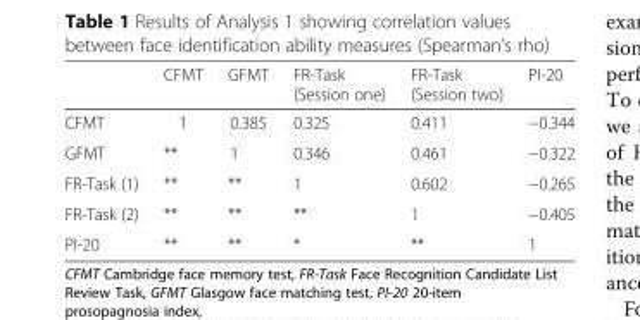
<table><thead><tr><td></td><td>CFMT</td><td>GFMT</td><td>FR-Task (Session one)</td><td>FR-Task (Session two)</td><td>PI-20</td></tr></thead><tbody><tr><td>CFMT</td><td>1</td><td>0.385</td><td>0.325</td><td>0.411</td><td>−0.344</td></tr><tr><td>GFMT</td><td>**</td><td>1</td><td>0.346</td><td>0.461</td><td>−0.322</td></tr><tr><td>FR-Task (1)</td><td>**</td><td>**</td><td>1</td><td>0.602</td><td>−0.265</td></tr><tr><td>FR-Task (2)</td><td>**</td><td>**</td><td>**</td><td>1</td><td>−0.405</td></tr><tr><td>PI-20</td><td>**</td><td>**</td><td>*</td><td>**</td><td>1</td></tr></tbody></table>